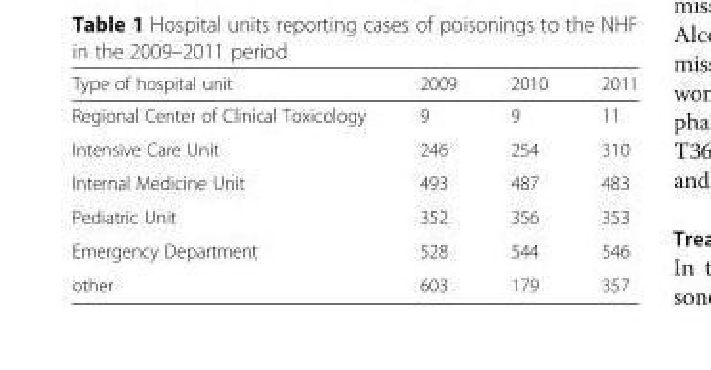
<table><thead><tr><td>Type of hospital unit</td><td>2009</td><td>2010</td><td>2011</td></tr></thead><tbody><tr><td>Regional Center of Clinical Toxicology</td><td>9</td><td>9</td><td>11</td></tr><tr><td>Intensive Care Unit</td><td>246</td><td>254</td><td>310</td></tr><tr><td>Internal Medicine Unit</td><td>493</td><td>487</td><td>483</td></tr><tr><td>Pediatric Unit</td><td>352</td><td>356</td><td>353</td></tr><tr><td>Emergency Department</td><td>528</td><td>544</td><td>546</td></tr><tr><td>other</td><td>603</td><td>179</td><td>357</td></tr></tbody></table>